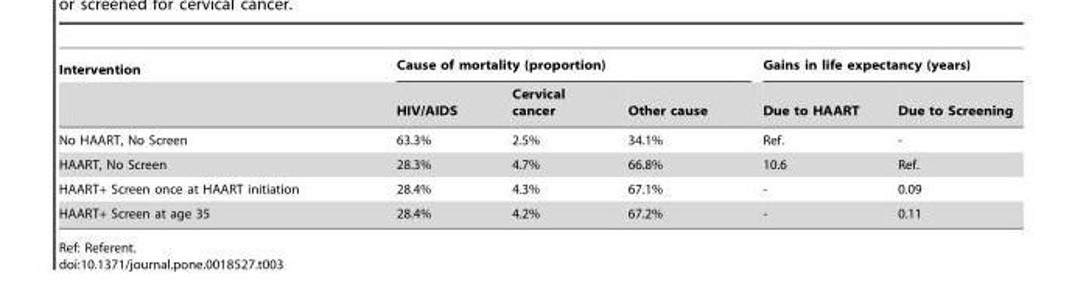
<table><thead><tr><td rowspan="2">Intervention</td><td colspan="3">Cause of mortality (proportion)</td><td colspan="2">Gains in life expectancy (years)</td></tr><tr><td>HIV/AIDS</td><td>Cervical cancer</td><td>Other cause</td><td>Due to HAART</td><td>Due to Screening</td></tr></thead><tbody><tr><td>No HAART, No Screen</td><td>63.3%</td><td>2.5%</td><td>34.1%</td><td>Ref.</td><td>-</td></tr><tr><td>HAART, No Screen</td><td>28.3%</td><td>4.7%</td><td>66.8%</td><td>10.6</td><td>Ref.</td></tr><tr><td>HAART+ Screen once at HAART initiation</td><td>28.4%</td><td>4.3%</td><td>67.1%</td><td>-</td><td>0.09</td></tr><tr><td>HAART+ Screen at age 35</td><td>28.4%</td><td>4.2%</td><td>67.2%</td><td>-</td><td>0.11</td></tr></tbody></table>